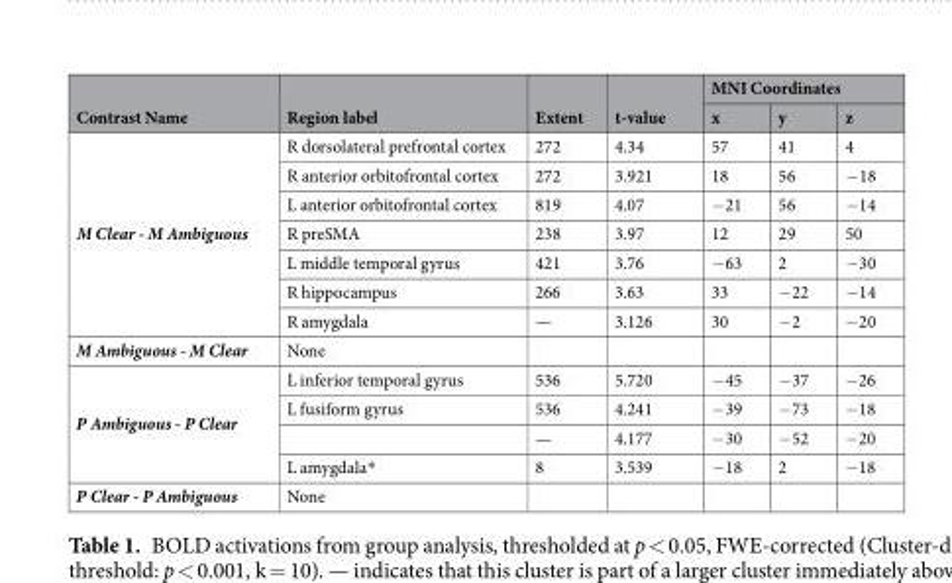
<table><thead><tr><td rowspan="2">Contrast Name</td><td rowspan="2">Region label</td><td rowspan="2">Extent</td><td rowspan="2">t-value</td><td colspan="3">MNI Coordinates</td></tr><tr><td>x</td><td>y</td><td>z</td></tr></thead><tbody><tr><td rowspan="7">M Clear - M Ambiguous</td><td>R dorsolateral prefrontal cortex</td><td>272</td><td>4.34</td><td>57</td><td>41</td><td>4</td></tr><tr><td>R anterior orbitofrontal cortex</td><td>272</td><td>3.921</td><td>18</td><td>56</td><td>−18</td></tr><tr><td>L anterior orbitofrontal cortex</td><td>819</td><td>4.07</td><td>−21</td><td>56</td><td>−14</td></tr><tr><td>R preSMA</td><td>238</td><td>3.97</td><td>12</td><td>29</td><td>50</td></tr><tr><td>L middle temporal gyrus</td><td>421</td><td>3.76</td><td>−63</td><td>2</td><td>−30</td></tr><tr><td>R hippocampus</td><td>266</td><td>3.63</td><td>33</td><td>−22</td><td>−14</td></tr><tr><td>R amygdala</td><td>—</td><td>3.126</td><td>30</td><td>−2</td><td>−20</td></tr><tr><td>M Ambiguous - M Clear</td><td>None</td><td></td><td></td><td></td><td></td><td></td></tr><tr><td rowspan="4">P Ambiguous - P Clear</td><td>L inferior temporal gyrus</td><td>536</td><td>5.720</td><td>−45</td><td>−37</td><td>−26</td></tr><tr><td>L fusiform gyrus</td><td>536</td><td>4.241</td><td>−39</td><td>−73</td><td>−18</td></tr><tr><td></td><td>—</td><td>4.177</td><td>−30</td><td>−52</td><td>−20</td></tr><tr><td>L amygdala*</td><td>8</td><td>3.539</td><td>−18</td><td>2</td><td>−18</td></tr><tr><td>P Clear - P Ambiguous</td><td>None</td><td></td><td></td><td></td><td></td><td></td></tr></tbody></table>